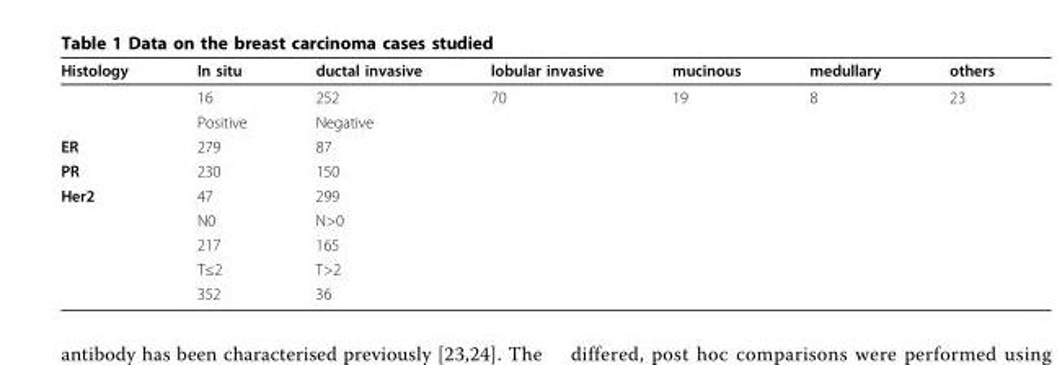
<table><thead><tr><td>Histology</td><td>In situ</td><td>ductal invasive</td><td>lobular invasive</td><td>mucinous</td><td>medullary</td><td>others</td></tr></thead><tbody><tr><td></td><td>16</td><td>252</td><td>70</td><td>19</td><td>8</td><td>23</td></tr><tr><td></td><td>Positive</td><td>Negative</td><td></td><td></td><td></td><td></td></tr><tr><td>ER</td><td>279</td><td>87</td><td></td><td></td><td></td><td></td></tr><tr><td>PR</td><td>230</td><td>150</td><td></td><td></td><td></td><td></td></tr><tr><td rowspan="5">Her2</td><td>47</td><td>299</td><td></td><td></td><td></td><td></td></tr><tr><td>N0</td><td>N&gt;0</td><td></td><td></td><td></td><td></td></tr><tr><td>217</td><td>165</td><td></td><td></td><td></td><td></td></tr><tr><td>T≤2</td><td>T&gt;2</td><td></td><td></td><td></td><td></td></tr><tr><td>352</td><td>36</td><td></td><td></td><td></td><td></td></tr></tbody></table>